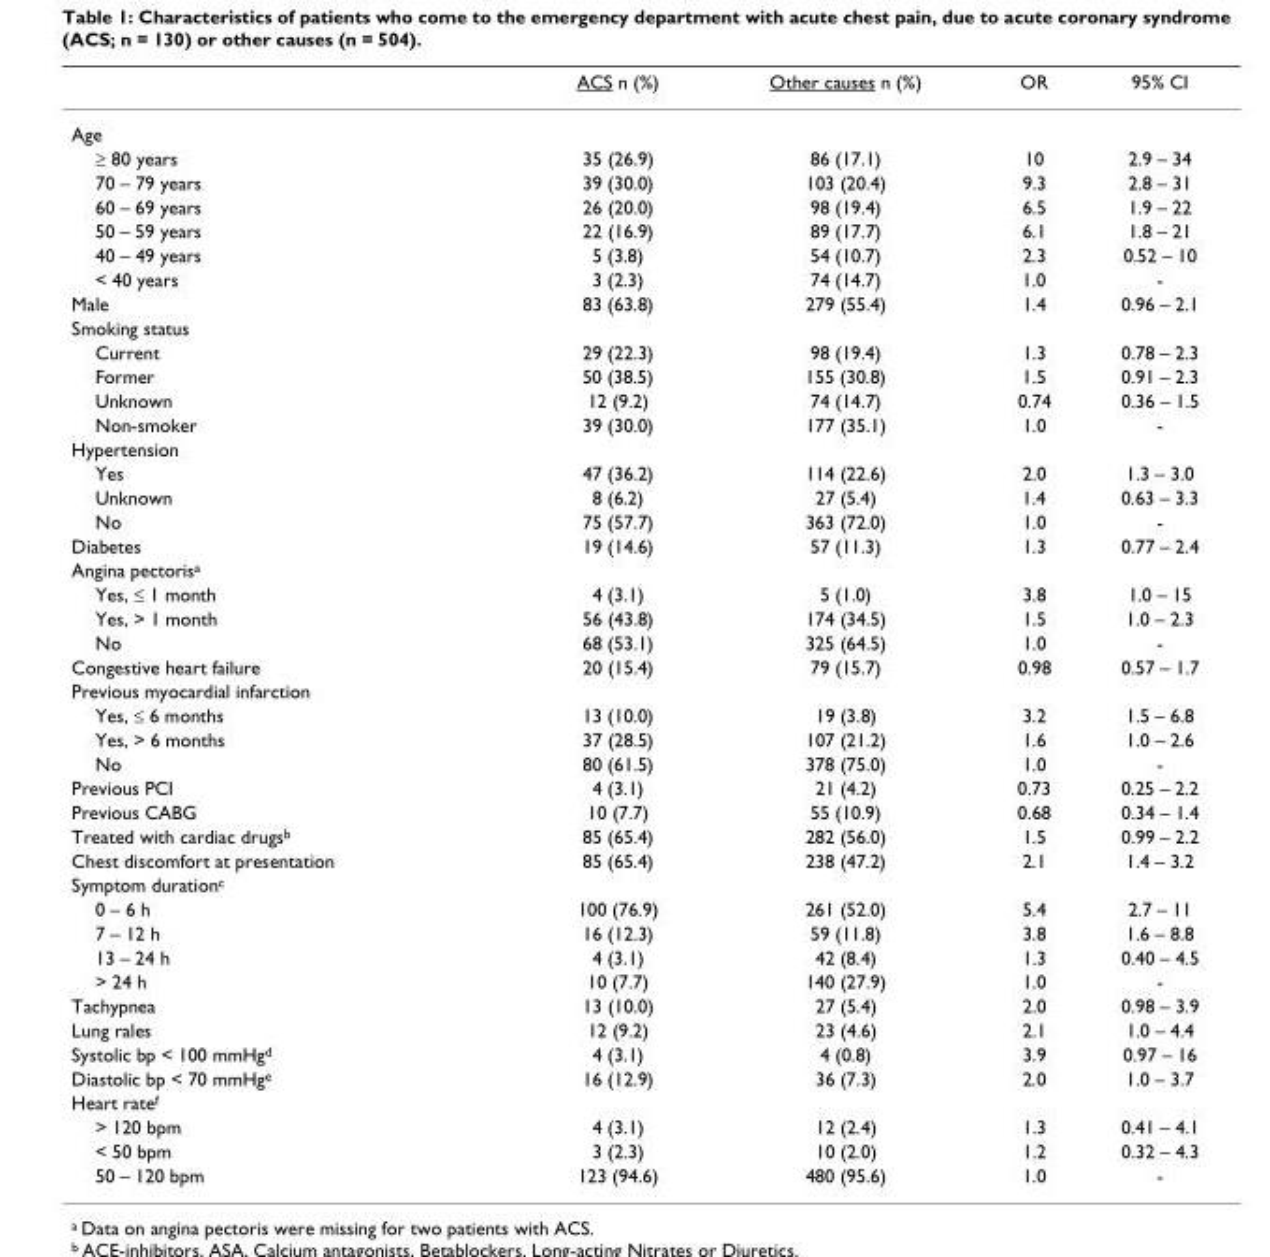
<table><thead><tr><td></td><td>ACS n (%)</td><td>Other causes n (%)</td><td>OR</td><td>95% CI</td></tr></thead><tbody><tr><td colspan="5">Age</td></tr><tr><td>≥ 80 years</td><td>35 (26.9)</td><td>86 (17.1)</td><td>10</td><td>2.9 – 34</td></tr><tr><td>70 – 79 years</td><td>39 (30.0)</td><td>103 (20.4)</td><td>9.3</td><td>2.8 – 31</td></tr><tr><td>60 – 69 years</td><td>26 (20.0)</td><td>98 (19.4)</td><td>6.5</td><td>1.9 – 22</td></tr><tr><td>50 – 59 years</td><td>22 (16.9)</td><td>89 (17.7)</td><td>6.1</td><td>1.8 – 21</td></tr><tr><td>40 – 49 years</td><td>5 (3.8)</td><td>54 (10.7)</td><td>2.3</td><td>0.52 – 10</td></tr><tr><td>&lt; 40 years</td><td>3 (2.3)</td><td>74 (14.7)</td><td>1.0</td><td>-</td></tr><tr><td>Male</td><td>83 (63.8)</td><td>279 (55.4)</td><td>1.4</td><td>0.96 – 2.1</td></tr><tr><td colspan="5">Smoking status</td></tr><tr><td>Current</td><td>29 (22.3)</td><td>98 (19.4)</td><td>1.3</td><td>0.78 – 2.3</td></tr><tr><td>Former</td><td>50 (38.5)</td><td>155 (30.8)</td><td>1.5</td><td>0.91 – 2.3</td></tr><tr><td>Unknown</td><td>12 (9.2)</td><td>74 (14.7)</td><td>0.74</td><td>0.36 – 1.5</td></tr><tr><td>Non-smoker</td><td>39 (30.0)</td><td>177 (35.1)</td><td>1.0</td><td>-</td></tr><tr><td colspan="5">Hypertension</td></tr><tr><td>Yes</td><td>47 (36.2)</td><td>114 (22.6)</td><td>2.0</td><td>1.3 – 3.0</td></tr><tr><td>Unknown</td><td>8 (6.2)</td><td>27 (5.4)</td><td>1.4</td><td>0.63 – 3.3</td></tr><tr><td>No</td><td>75 (57.7)</td><td>363 (72.0)</td><td>1.0</td><td>-</td></tr><tr><td>Diabetes</td><td>19 (14.6)</td><td>57 (11.3)</td><td>1.3</td><td>0.77 – 2.4</td></tr><tr><td colspan="5">Angina pectoris<sup>a</sup></td></tr><tr><td>Yes, ≤ 1 month</td><td>4 (3.1)</td><td>5 (1.0)</td><td>3.8</td><td>1.0 – 15</td></tr><tr><td>Yes, &gt; 1 month</td><td>56 (43.8)</td><td>174 (34.5)</td><td>1.5</td><td>1.0 – 2.3</td></tr><tr><td>No</td><td>68 (53.1)</td><td>325 (64.5)</td><td>1.0</td><td>-</td></tr><tr><td>Congestive heart failure</td><td>20 (15.4)</td><td>79 (15.7)</td><td>0.98</td><td>0.57 – 1.7</td></tr><tr><td colspan="5">Previous myocardial infarction</td></tr><tr><td>Yes, ≤ 6 months</td><td>13 (10.0)</td><td>19 (3.8)</td><td>3.2</td><td>1.5 – 6.8</td></tr><tr><td>Yes, &gt; 6 months</td><td>37 (28.5)</td><td>107 (21.2)</td><td>1.6</td><td>1.0 – 2.6</td></tr><tr><td>No</td><td>80 (61.5)</td><td>378 (75.0)</td><td>1.0</td><td>-</td></tr><tr><td>Previous PCI</td><td>4 (3.1)</td><td>21 (4.2)</td><td>0.73</td><td>0.25 – 2.2</td></tr><tr><td>Previous CABG</td><td>10 (7.7)</td><td>55 (10.9)</td><td>0.68</td><td>0.34 – 1.4</td></tr><tr><td>Treated with cardiac drugs<sup>b</sup></td><td>85 (65.4)</td><td>282 (56.0)</td><td>1.5</td><td>0.99 – 2.2</td></tr><tr><td>Chest discomfort at presentation</td><td>85 (65.4)</td><td>238 (47.2)</td><td>2.1</td><td>1.4 – 3.2</td></tr><tr><td colspan="5">Symptom duration<sup>c</sup></td></tr><tr><td>0 – 6 h</td><td>100 (76.9)</td><td>261 (52.0)</td><td>5.4</td><td>2.7 – 11</td></tr><tr><td>7 – 12 h</td><td>16 (12.3)</td><td>59 (11.8)</td><td>3.8</td><td>1.6 – 8.8</td></tr><tr><td>13 – 24 h</td><td>4 (3.1)</td><td>42 (8.4)</td><td>1.3</td><td>0.40 – 4.5</td></tr><tr><td>&gt; 24 h</td><td>10 (7.7)</td><td>140 (27.9)</td><td>1.0</td><td>-</td></tr><tr><td>Tachypnea</td><td>13 (10.0)</td><td>27 (5.4)</td><td>2.0</td><td>0.98 – 3.9</td></tr><tr><td>Lung rales</td><td>12 (9.2)</td><td>23 (4.6)</td><td>2.1</td><td>1.0 – 4.4</td></tr><tr><td>Systolic bp &lt; 100 mmHg<sup>d</sup></td><td>4 (3.1)</td><td>4 (0.8)</td><td>3.9</td><td>0.97 – 16</td></tr><tr><td>Diastolic bp &lt; 70 mmHg<sup>e</sup></td><td>16 (12.9)</td><td>36 (7.3)</td><td>2.0</td><td>1.0 – 3.7</td></tr><tr><td colspan="5">Heart rate<sup>f</sup></td></tr><tr><td>&gt; 120 bpm</td><td>4 (3.1)</td><td>12 (2.4)</td><td>1.3</td><td>0.41 – 4.1</td></tr><tr><td>&lt; 50 bpm</td><td>3 (2.3)</td><td>10 (2.0)</td><td>1.2</td><td>0.32 – 4.3</td></tr><tr><td>50 – 120 bpm</td><td>123 (94.6)</td><td>480 (95.6)</td><td>1.0</td><td>-</td></tr></tbody></table>